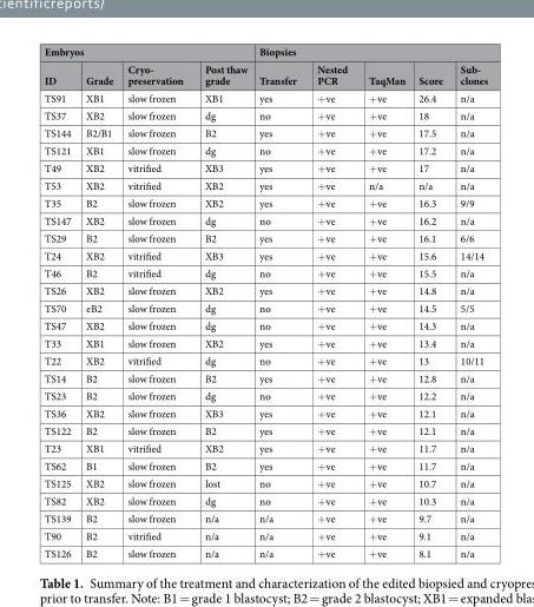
<table><thead><tr><td colspan="4">Embryos</td><td colspan="5">Biopsies</td></tr><tr><td>ID</td><td>Grade</td><td>Cryo- preservation</td><td>Post thaw grade</td><td>Transfer</td><td>Nested PCR</td><td>TaqMan</td><td>Score</td><td>Sub- clones</td></tr></thead><tbody><tr><td>TS91</td><td>XB1</td><td>slow frozen</td><td>XB1</td><td>yes</td><td>+ve</td><td>+ve</td><td>26.4</td><td>n/a</td></tr><tr><td>TS37</td><td>XB2</td><td>slow frozen</td><td>dg</td><td>no</td><td>+ve</td><td>+ve</td><td>18</td><td>n/a</td></tr><tr><td>TS144</td><td>B2/B1</td><td>slow frozen</td><td>B2</td><td>yes</td><td>+ve</td><td>+ve</td><td>17.5</td><td>n/a</td></tr><tr><td>TS121</td><td>XB1</td><td>slow frozen</td><td>dg</td><td>no</td><td>+ve</td><td>+ve</td><td>17.2</td><td>n/a</td></tr><tr><td>T49</td><td>XB2</td><td>vitrified</td><td>XB3</td><td>yes</td><td>+ve</td><td>+ve</td><td>17</td><td>n/a</td></tr><tr><td>T53</td><td>XB2</td><td>vitrified</td><td>XB2</td><td>yes</td><td>+ve</td><td>n/a</td><td>n/a</td><td>n/a</td></tr><tr><td>T35</td><td>B2</td><td>slow frozen</td><td>XB2</td><td>yes</td><td>+ve</td><td>+ve</td><td>16.3</td><td>9/9</td></tr><tr><td>TS147</td><td>XB2</td><td>slow frozen</td><td>dg</td><td>no</td><td>+ve</td><td>+ve</td><td>16.2</td><td>n/a</td></tr><tr><td>TS29</td><td>B2</td><td>slow frozen</td><td>B2</td><td>yes</td><td>+ve</td><td>+ve</td><td>16.1</td><td>6/6</td></tr><tr><td>T24</td><td>XB2</td><td>vitrified</td><td>XB3</td><td>yes</td><td>+ve</td><td>+ve</td><td>15.6</td><td>14/14</td></tr><tr><td>T46</td><td>B2</td><td>vitrified</td><td>dg</td><td>no</td><td>+ve</td><td>+ve</td><td>15.5</td><td>n/a</td></tr><tr><td>TS26</td><td>XB2</td><td>slow frozen</td><td>XB2</td><td>yes</td><td>+ve</td><td>+ve</td><td>14.8</td><td>n/a</td></tr><tr><td>TS70</td><td>eB2</td><td>slow frozen</td><td>dg</td><td>no</td><td>+ve</td><td>+ve</td><td>14.5</td><td>5/5</td></tr><tr><td>TS47</td><td>XB2</td><td>slow frozen</td><td>dg</td><td>no</td><td>+ve</td><td>+ve</td><td>14.3</td><td>n/a</td></tr><tr><td>T33</td><td>XB1</td><td>slow frozen</td><td>XB2</td><td>yes</td><td>+ve</td><td>+ve</td><td>13.4</td><td>n/a</td></tr><tr><td>T22</td><td>XB2</td><td>vitrified</td><td>dg</td><td>no</td><td>+ve</td><td>+ve</td><td>13</td><td>10/11</td></tr><tr><td>TS14</td><td>B2</td><td>slow frozen</td><td>B2</td><td>yes</td><td>+ve</td><td>+ve</td><td>12.8</td><td>n/a</td></tr><tr><td>TS23</td><td>B2</td><td>slow frozen</td><td>dg</td><td>no</td><td>+ve</td><td>+ve</td><td>12.2</td><td>n/a</td></tr><tr><td>TS36</td><td>XB2</td><td>slow frozen</td><td>XB3</td><td>yes</td><td>+ve</td><td>+ve</td><td>12.1</td><td>n/a</td></tr><tr><td>TS122</td><td>B2</td><td>slow frozen</td><td>B2</td><td>yes</td><td>+ve</td><td>+ve</td><td>12.1</td><td>n/a</td></tr><tr><td>T23</td><td>XB1</td><td>vitrified</td><td>XB2</td><td>yes</td><td>+ve</td><td>+ve</td><td>11.7</td><td>n/a</td></tr><tr><td>TS62</td><td>B1</td><td>slow frozen</td><td>B2</td><td>yes</td><td>+ve</td><td>+ve</td><td>11.7</td><td>n/a</td></tr><tr><td>TS125</td><td>XB2</td><td>slow frozen</td><td>lost</td><td>no</td><td>+ve</td><td>+ve</td><td>10.7</td><td>n/a</td></tr><tr><td>TS82</td><td>XB2</td><td>slow frozen</td><td>dg</td><td>no</td><td>+ve</td><td>+ve</td><td>10.3</td><td>n/a</td></tr><tr><td>TS139</td><td>B2</td><td>slow frozen</td><td>n/a</td><td>n/a</td><td>+ve</td><td>+ve</td><td>9.7</td><td>n/a</td></tr><tr><td>T90</td><td>B2</td><td>vitrified</td><td>n/a</td><td>n/a</td><td>+ve</td><td>+ve</td><td>9.1</td><td>n/a</td></tr><tr><td>TS126</td><td>B2</td><td>slow frozen</td><td>n/a</td><td>n/a</td><td>+ve</td><td>+ve</td><td>8.1</td><td>n/a</td></tr></tbody></table>